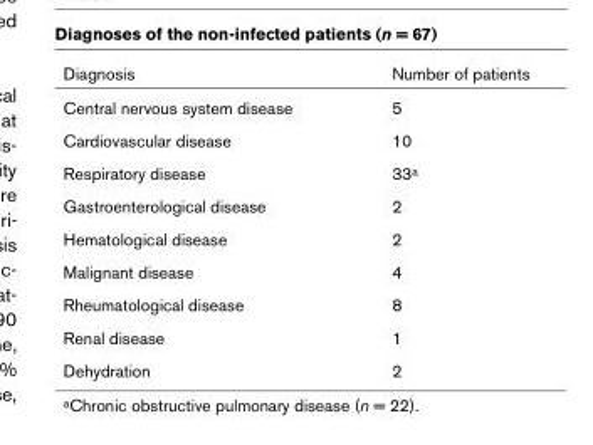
<table><thead><tr><td>Diagnosis</td><td>Number of patients</td></tr></thead><tbody><tr><td>Central nervous system disease</td><td>5</td></tr><tr><td>Cardiovascular disease</td><td>10</td></tr><tr><td>Respiratory disease</td><td>33a</td></tr><tr><td>Gastroenterological disease</td><td>2</td></tr><tr><td>Hematological disease</td><td>2</td></tr><tr><td>Malignant disease</td><td>4</td></tr><tr><td>Rheumatological disease</td><td>8</td></tr><tr><td>Renal disease</td><td>1</td></tr><tr><td>Dehydration</td><td>2</td></tr></tbody></table>